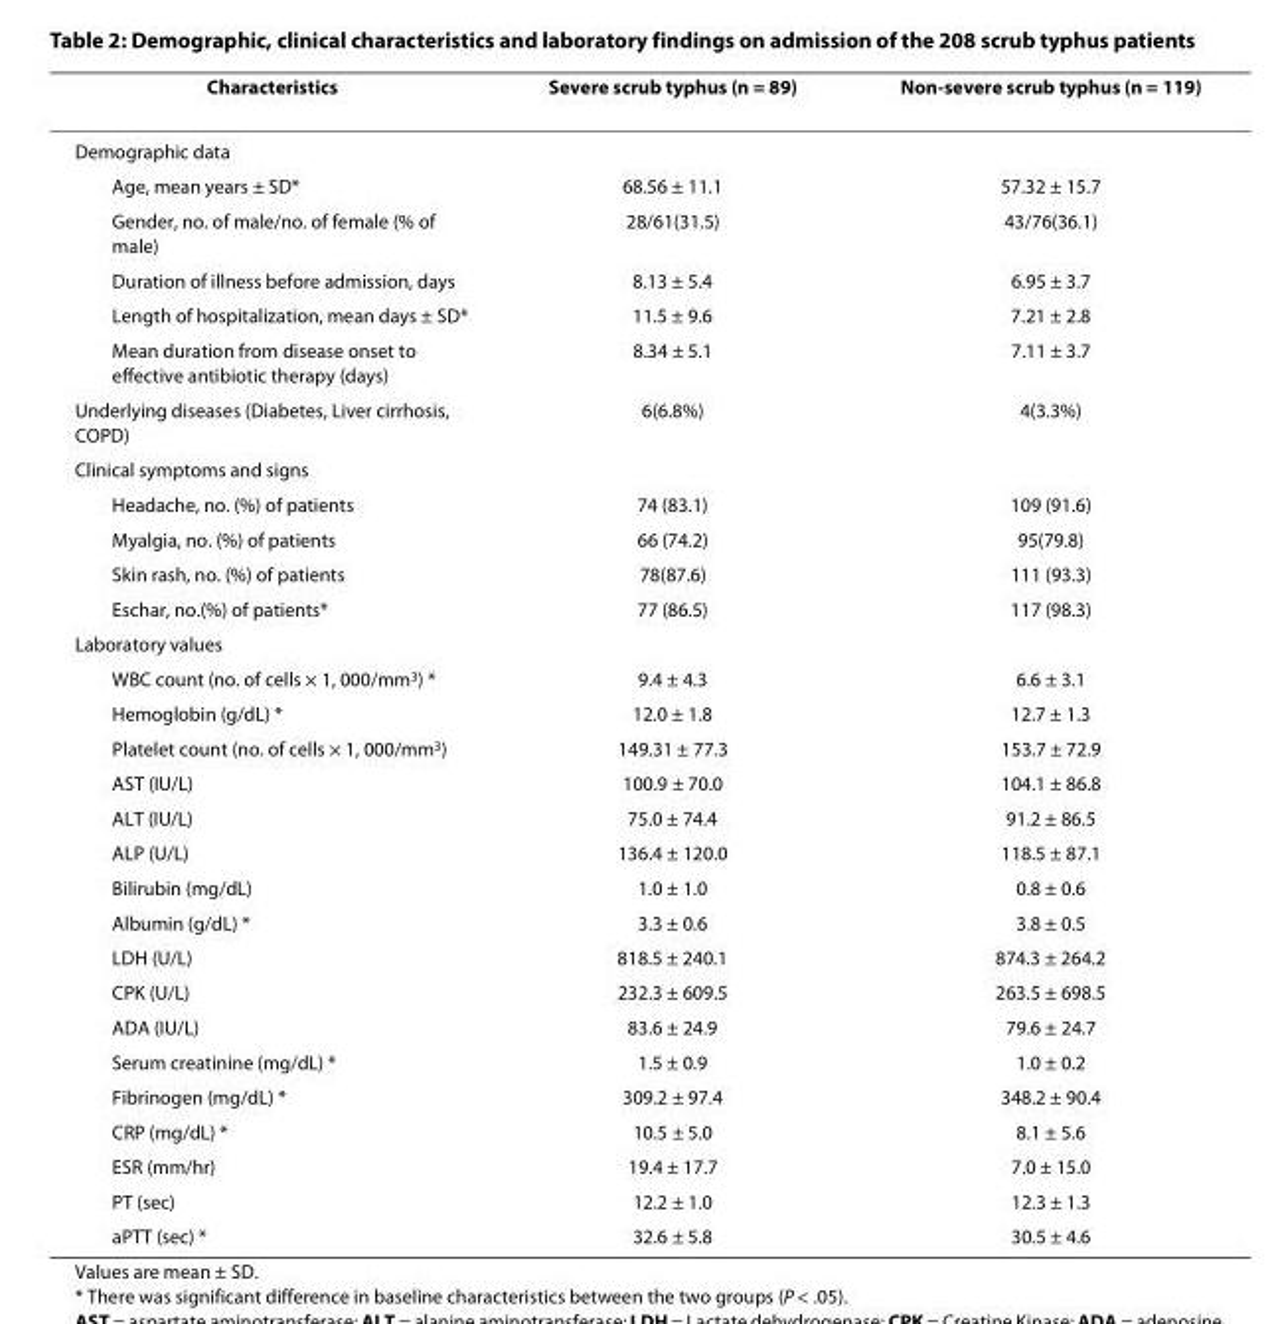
<table><thead><tr><td>Characteristics</td><td>Severe scrub typhus (n = 89)</td><td>Non-severe scrub typhus (n = 119)</td></tr></thead><tbody><tr><td colspan="3">Demographic data</td></tr><tr><td>Age, mean years ± SD*</td><td>68.56 ± 11.1</td><td>57.32 ± 15.7</td></tr><tr><td>Gender, no. of male/no. of female (% of male)</td><td>28/61(31.5)</td><td>43/76(36.1)</td></tr><tr><td>Duration of illness before admission, days</td><td>8.13 ± 5.4</td><td>6.95 ± 3.7</td></tr><tr><td>Length of hospitalization, mean days ± SD*</td><td>11.5 ± 9.6</td><td>7.21 ± 2.8</td></tr><tr><td>Mean duration from disease onset to effective antibiotic therapy (days)</td><td>8.34 ± 5.1</td><td>7.11 ± 3.7</td></tr><tr><td>Underlying diseases (Diabetes, Liver cirrhosis, COPD)</td><td>6(6.8%)</td><td>4(3.3%)</td></tr><tr><td colspan="3">Clinical symptoms and signs</td></tr><tr><td>Headache, no. (%) of patients</td><td>74 (83.1)</td><td>109 (91.6)</td></tr><tr><td>Myalgia, no. (%) of patients</td><td>66 (74.2)</td><td>95(79.8)</td></tr><tr><td>Skin rash, no. (%) of patients</td><td>78(87.6)</td><td>111 (93.3)</td></tr><tr><td>Eschar, no.(%) of patients*</td><td>77 (86.5)</td><td>117 (98.3)</td></tr><tr><td colspan="3">Laboratory values</td></tr><tr><td>WBC count (no. of cells × 1, 000/mm<sup>3</sup>) *</td><td>9.4 ± 4.3</td><td>6.6 ± 3.1</td></tr><tr><td>Hemoglobin (g/dL) *</td><td>12.0 ± 1.8</td><td>12.7 ± 1.3</td></tr><tr><td>Platelet count (no. of cells × 1, 000/mm<sup>3</sup>)</td><td>149.31 ± 77.3</td><td>153.7 ± 72.9</td></tr><tr><td>AST (IU/L)</td><td>100.9 ± 70.0</td><td>104.1 ± 86.8</td></tr><tr><td>ALT (IU/L)</td><td>75.0 ± 74.4</td><td>91.2 ± 86.5</td></tr><tr><td>ALP (U/L)</td><td>136.4 ± 120.0</td><td>118.5 ± 87.1</td></tr><tr><td>Bilirubin (mg/dL)</td><td>1.0 ± 1.0</td><td>0.8 ± 0.6</td></tr><tr><td>Albumin (g/dL) *</td><td>3.3 ± 0.6</td><td>3.8 ± 0.5</td></tr><tr><td>LDH (U/L)</td><td>818.5 ± 240.1</td><td>874.3 ± 264.2</td></tr><tr><td>CPK (U/L)</td><td>232.3 ± 609.5</td><td>263.5 ± 698.5</td></tr><tr><td>ADA (IU/L)</td><td>83.6 ± 24.9</td><td>79.6 ± 24.7</td></tr><tr><td>Serum creatinine (mg/dL) *</td><td>1.5 ± 0.9</td><td>1.0 ± 0.2</td></tr><tr><td>Fibrinogen (mg/dL) *</td><td>309.2 ± 97.4</td><td>348.2 ± 90.4</td></tr><tr><td>CRP (mg/dL) *</td><td>10.5 ± 5.0</td><td>8.1 ± 5.6</td></tr><tr><td>ESR (mm/hr)</td><td>19.4 ± 17.7</td><td>7.0 ± 15.0</td></tr><tr><td>PT (sec)</td><td>12.2 ± 1.0</td><td>12.3 ± 1.3</td></tr><tr><td>aPTT (sec) *</td><td>32.6 ± 5.8</td><td>30.5 ± 4.6</td></tr></tbody></table>